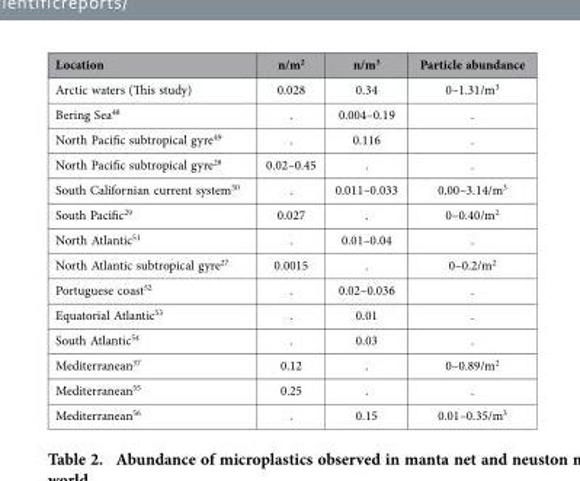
<table><thead><tr><td>Location</td><td>n/m<sup>2</sup></td><td>n/m<sup>3</sup></td><td>Particle abundance</td></tr></thead><tbody><tr><td>Arctic waters (This study)</td><td>0.028</td><td>0.34</td><td>0–1.31/m<sup>3</sup></td></tr><tr><td>Bering Sea<sup>48</sup></td><td>.</td><td>0.004–0.19</td><td>.</td></tr><tr><td>North Pacific subtropical gyre<sup>49</sup></td><td>.</td><td>0.116</td><td>.</td></tr><tr><td>North Pacific subtropical gyre<sup>28</sup></td><td>0.02–0.45</td><td>.</td><td>.</td></tr><tr><td>South Californian current system<sup>50</sup></td><td>.</td><td>0.011–0.033</td><td>0.00–3.14/m<sup>3</sup></td></tr><tr><td>South Pacific<sup>29</sup></td><td>0.027</td><td>.</td><td>0–0.40/m<sup>2</sup></td></tr><tr><td>North Atlantic<sup>51</sup></td><td>.</td><td>0.01–0.04</td><td>.</td></tr><tr><td>North Atlantic subtropical gyre<sup>27</sup></td><td>0.0015</td><td>.</td><td>0–0.2/m<sup>2</sup></td></tr><tr><td>Portuguese coast<sup>52</sup></td><td>.</td><td>0.02–0.036</td><td>.</td></tr><tr><td>Equatorial Atlantic<sup>53</sup></td><td>.</td><td>0.01</td><td>.</td></tr><tr><td>South Atlantic<sup>54</sup></td><td>.</td><td>0.03</td><td>.</td></tr><tr><td>Mediterranean<sup>37</sup></td><td>0.12</td><td>.</td><td>0–0.89/m<sup>2</sup></td></tr><tr><td>Mediterranean<sup>55</sup></td><td>0.25</td><td>.</td><td>.</td></tr><tr><td>Mediterranean<sup>56</sup></td><td>.</td><td>0.15</td><td>0.01–0.35/m<sup>3</sup></td></tr></tbody></table>